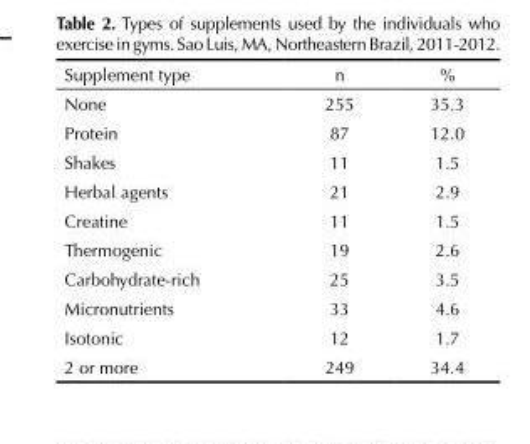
<table><thead><tr><td>Supplement type</td><td>n</td><td>%</td></tr></thead><tbody><tr><td>None</td><td>255</td><td>35.3</td></tr><tr><td>Protein</td><td>87</td><td>12.0</td></tr><tr><td>Shakes</td><td>11</td><td>1.5</td></tr><tr><td>Herbal agents</td><td>21</td><td>2.9</td></tr><tr><td>Creatine</td><td>11</td><td>1.5</td></tr><tr><td>Thermogenic</td><td>19</td><td>2.6</td></tr><tr><td>Carbohydrate-rich</td><td>25</td><td>3.5</td></tr><tr><td>Micronutrients</td><td>33</td><td>4.6</td></tr><tr><td>Isotonic</td><td>12</td><td>1.7</td></tr><tr><td>2 or more</td><td>249</td><td>34.4</td></tr></tbody></table>